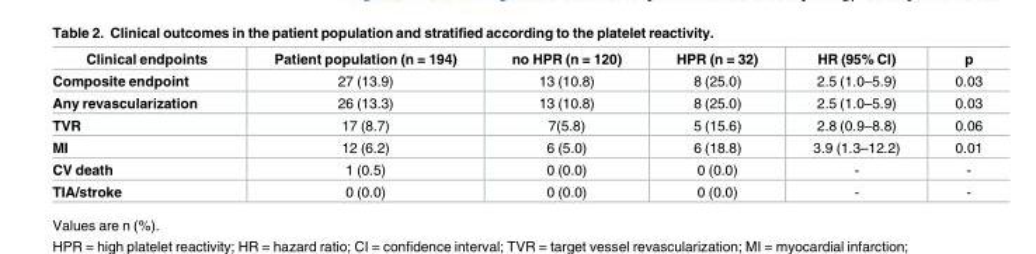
<table><thead><tr><td>Clinical endpoints</td><td>Patient population (n = 194)</td><td>no HPR (n = 120)</td><td>HPR (n = 32)</td><td>HR (95% CI)</td><td>p</td></tr></thead><tbody><tr><td>Composite endpoint</td><td>27 (13.9)</td><td>13 (10.8)</td><td>8 (25.0)</td><td>2.5 (1.0–5.9)</td><td>0.03</td></tr><tr><td>Any revascularization</td><td>26 (13.3)</td><td>13 (10.8)</td><td>8 (25.0)</td><td>2.5 (1.0–5.9)</td><td>0.03</td></tr><tr><td>TVR</td><td>17 (8.7)</td><td>7(5.8)</td><td>5 (15.6)</td><td>2.8 (0.9–8.8)</td><td>0.06</td></tr><tr><td>MI</td><td>12 (6.2)</td><td>6 (5.0)</td><td>6 (18.8)</td><td>3.9 (1.3–12.2)</td><td>0.01</td></tr><tr><td>CV death</td><td>1 (0.5)</td><td>0 (0.0)</td><td>0 (0.0)</td><td>-</td><td>-</td></tr><tr><td>TIA/stroke</td><td>0 (0.0)</td><td>0 (0.0)</td><td>0 (0.0)</td><td>-</td><td>-</td></tr></tbody></table>